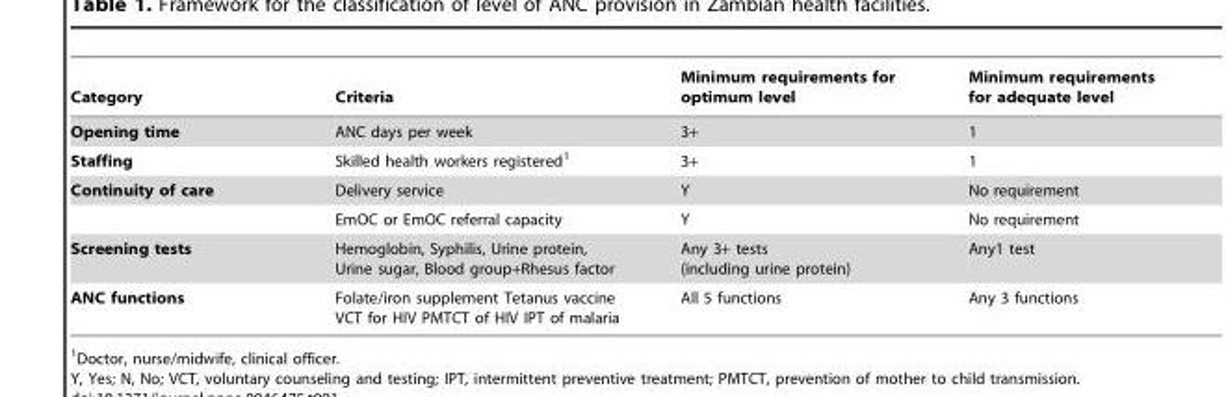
<table><thead><tr><td>Category</td><td>Criteria</td><td>Minimum requirements for optimum level</td><td>Minimum requirements for adequate level</td></tr></thead><tbody><tr><td>Opening time</td><td>ANC days per week</td><td>3+</td><td>1</td></tr><tr><td>Staffing</td><td>Skilled health workers registered<sup>1</sup></td><td>3+</td><td>1</td></tr><tr><td rowspan="2">Continuity of care</td><td>Delivery service</td><td>Y</td><td>No requirement</td></tr><tr><td>EmOC or EmOC referral capacity</td><td>Y</td><td>No requirement</td></tr><tr><td>Screening tests</td><td>Hemoglobin, Syphilis, Urine protein, Urine sugar, Blood group+Rhesus factor</td><td>Any 3+ tests (including urine protein)</td><td>Any1 test</td></tr><tr><td>ANC functions</td><td>Folate/iron supplement Tetanus vaccine VCT for HIV PMTCT of HIV IPT of malaria</td><td>All 5 functions</td><td>Any 3 functions</td></tr></tbody></table>